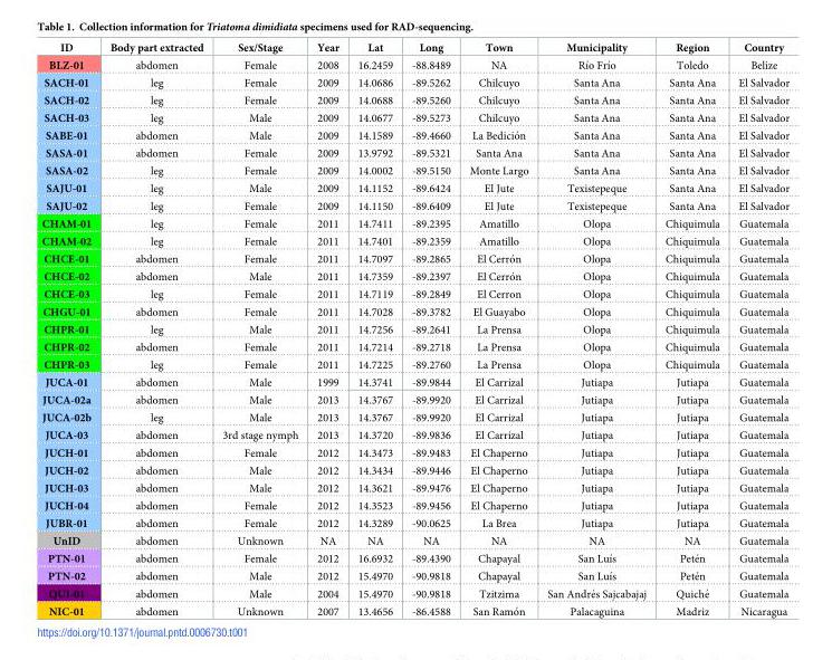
<table><thead><tr><td>ID</td><td>Body part extracted</td><td>Sex/Stage</td><td>Year</td><td>Lat</td><td>Long</td><td>Town</td><td>Municipality</td><td>Region</td><td>Country</td></tr></thead><tbody><tr><td>BLZ-01</td><td>abdomen</td><td>Female</td><td>2008</td><td>16.2459</td><td>-88.8489</td><td>NA</td><td>Rı´o Frı´o</td><td>Toledo</td><td>Belize</td></tr><tr><td>SACH-01</td><td>leg</td><td>Female</td><td>2009</td><td>14.0686</td><td>-89.5262</td><td>Chilcuyo</td><td>Santa Ana</td><td>Santa Ana</td><td>El Salvador</td></tr><tr><td>SACH-02</td><td>leg</td><td>Female</td><td>2009</td><td>14.0688</td><td>-89.5260</td><td>Chilcuyo</td><td>Santa Ana</td><td>Santa Ana</td><td>El Salvador</td></tr><tr><td>SACH-03</td><td>leg</td><td>Male</td><td>2009</td><td>14.0677</td><td>-89.5273</td><td>Chilcuyo</td><td>Santa Ana</td><td>Santa Ana</td><td>El Salvador</td></tr><tr><td>SABE-01</td><td>abdomen</td><td>Male</td><td>2009</td><td>14.1589</td><td>-89.4660</td><td>La Bedicio´n</td><td>Santa Ana</td><td>Santa Ana</td><td>El Salvador</td></tr><tr><td>SASA-01</td><td>abdomen</td><td>Female</td><td>2009</td><td>13.9792</td><td>-89.5321</td><td>Santa Ana</td><td>Santa Ana</td><td>Santa Ana</td><td>El Salvador</td></tr><tr><td>SASA-02</td><td>leg</td><td>Female</td><td>2009</td><td>14.0002</td><td>-89.5150</td><td>Monte Largo</td><td>Santa Ana</td><td>Santa Ana</td><td>El Salvador</td></tr><tr><td>SAJU-01</td><td>leg</td><td>Male</td><td>2009</td><td>14.1152</td><td>-89.6424</td><td>El Jute</td><td>Texistepeque</td><td>Santa Ana</td><td>El Salvador</td></tr><tr><td>SAJU-02</td><td>leg</td><td>Female</td><td>2009</td><td>14.1150</td><td>-89.6409</td><td>El Jute</td><td>Texistepeque</td><td>Santa Ana</td><td>El Salvador</td></tr><tr><td>CHAM-01</td><td>leg</td><td>Female</td><td>2011</td><td>14.7411</td><td>-89.2395</td><td>Amatillo</td><td>Olopa</td><td>Chiquimula</td><td>Guatemala</td></tr><tr><td>CHAM-02</td><td>leg</td><td>Female</td><td>2011</td><td>14.7401</td><td>-89.2359</td><td>Amatillo</td><td>Olopa</td><td>Chiquimula</td><td>Guatemala</td></tr><tr><td>CHCE-01</td><td>abdomen</td><td>Female</td><td>2011</td><td>14.7097</td><td>-89.2865</td><td>El Cerro´n</td><td>Olopa</td><td>Chiquimula</td><td>Guatemala</td></tr><tr><td>CHCE-02</td><td>abdomen</td><td>Male</td><td>2011</td><td>14.7359</td><td>-89.2397</td><td>El Cerro´n</td><td>Olopa</td><td>Chiquimula</td><td>Guatemala</td></tr><tr><td>CHCE-03</td><td>leg</td><td>Female</td><td>2011</td><td>14.7119</td><td>-89.2849</td><td>El Cerron</td><td>Olopa</td><td>Chiquimula</td><td>Guatemala</td></tr><tr><td>CHGU-01</td><td>abdomen</td><td>Female</td><td>2011</td><td>14.7028</td><td>-89.3782</td><td>El Guayabo</td><td>Olopa</td><td>Chiquimula</td><td>Guatemala</td></tr><tr><td>CHPR-01</td><td>leg</td><td>Male</td><td>2011</td><td>14.7256</td><td>-89.2641</td><td>La Prensa</td><td>Olopa</td><td>Chiquimula</td><td>Guatemala</td></tr><tr><td>CHPR-02</td><td>abdomen</td><td>Female</td><td>2011</td><td>14.7214</td><td>-89.2718</td><td>La Prensa</td><td>Olopa</td><td>Chiquimula</td><td>Guatemala</td></tr><tr><td>CHPR-03</td><td>leg</td><td>Female</td><td>2011</td><td>14.7225</td><td>-89.2760</td><td>La Prensa</td><td>Olopa</td><td>Chiquimula</td><td>Guatemala</td></tr><tr><td>JUCA-01</td><td>abdomen</td><td>Male</td><td>1999</td><td>14.3741</td><td>-89.9844</td><td>El Carrizal</td><td>Jutiapa</td><td>Jutiapa</td><td>Guatemala</td></tr><tr><td>JUCA-02a</td><td>abdomen</td><td>Male</td><td>2013</td><td>14.3767</td><td>-89.9920</td><td>El Carrizal</td><td>Jutiapa</td><td>Jutiapa</td><td>Guatemala</td></tr><tr><td>JUCA-02b</td><td>leg</td><td>Male</td><td>2013</td><td>14.3767</td><td>-89.9920</td><td>El Carrizal</td><td>Jutiapa</td><td>Jutiapa</td><td>Guatemala</td></tr><tr><td>JUCA-03</td><td>abdomen</td><td>3rd stage nymph</td><td>2013</td><td>14.3720</td><td>-89.9836</td><td>El Carrizal</td><td>Jutiapa</td><td>Jutiapa</td><td>Guatemala</td></tr><tr><td>JUCH-01</td><td>abdomen</td><td>Female</td><td>2012</td><td>14.3473</td><td>-89.9483</td><td>El Chaperno</td><td>Jutiapa</td><td>Jutiapa</td><td>Guatemala</td></tr><tr><td>JUCH-02</td><td>abdomen</td><td>Male</td><td>2012</td><td>14.3434</td><td>-89.9446</td><td>El Chaperno</td><td>Jutiapa</td><td>Jutiapa</td><td>Guatemala</td></tr><tr><td>JUCH-03</td><td>abdomen</td><td>Male</td><td>2012</td><td>14.3621</td><td>-89.9476</td><td>El Chaperno</td><td>Jutiapa</td><td>Jutiapa</td><td>Guatemala</td></tr><tr><td>JUCH-04</td><td>abdomen</td><td>Female</td><td>2012</td><td>14.3523</td><td>-89.9456</td><td>El Chaperno</td><td>Jutiapa</td><td>Jutiapa</td><td>Guatemala</td></tr><tr><td>JUBR-01</td><td>abdomen</td><td>Female</td><td>2012</td><td>14.3289</td><td>-90.0625</td><td>La Brea</td><td>Jutiapa</td><td>Jutiapa</td><td>Guatemala</td></tr><tr><td>UnID</td><td>abdomen</td><td>Unknown</td><td>NA</td><td>NA</td><td>NA</td><td>NA</td><td>NA</td><td>NA</td><td>Guatemala</td></tr><tr><td>PTN-01</td><td>abdomen</td><td>Female</td><td>2012</td><td>16.6932</td><td>-89.4390</td><td>Chapayal</td><td>San Luı´s</td><td>Pete´n</td><td>Guatemala</td></tr><tr><td>PTN-02</td><td>abdomen</td><td>Male</td><td>2012</td><td>15.4970</td><td>-90.9818</td><td>Chapayal</td><td>San Luı´s</td><td>Pete´n</td><td>Guatemala</td></tr><tr><td>QUI-01</td><td>abdomen</td><td>Male</td><td>2004</td><td>15.4970</td><td>-90.9818</td><td>Tzitzima</td><td>San Andre´s Sajcabajaj</td><td>Quiche´</td><td>Guatemala</td></tr><tr><td>NIC-01</td><td>abdomen</td><td>Unknown</td><td>2007</td><td>13.4656</td><td>-86.4588</td><td>San Ramo´n</td><td>Palacaguina</td><td>Madriz</td><td>Nicaragua</td></tr></tbody></table>